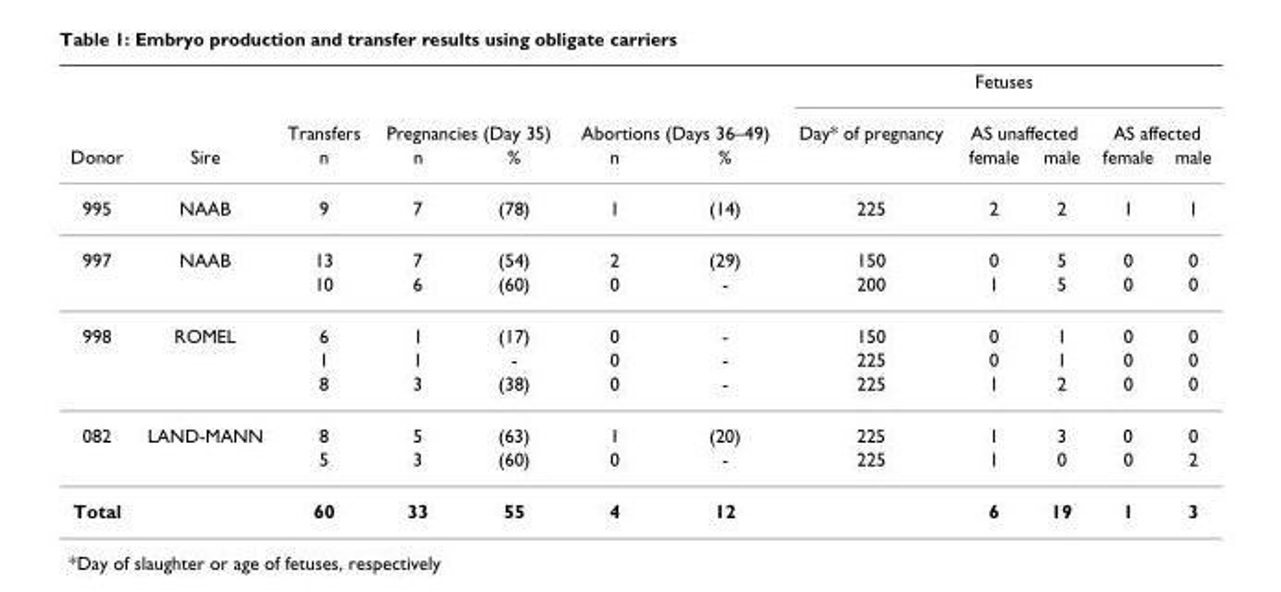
<table><thead><tr><td rowspan="3">Donor</td><td rowspan="3">Sire</td><td rowspan="3">Transfers n</td><td></td><td></td><td></td><td></td><td colspan="5">Fetuses</td></tr><tr><td colspan="2">Pregnancies (Day 35)</td><td colspan="2">Abortions (Days 36–49)</td><td rowspan="2">Day* of pregnancy</td><td colspan="2">AS unaffected</td><td colspan="2">AS affected</td></tr><tr><td>n</td><td>%</td><td>n</td><td>%</td><td>female</td><td>male</td><td>female</td><td>male</td></tr></thead><tbody><tr><td>995</td><td>NAAB</td><td>9</td><td>7</td><td>(78)</td><td>1</td><td>(14)</td><td>225</td><td>2</td><td>2</td><td>1</td><td>1</td></tr><tr><td rowspan="2">997</td><td>NAAB</td><td>13</td><td>7</td><td>(54)</td><td>2</td><td>(29)</td><td>150</td><td>0</td><td>5</td><td>0</td><td>0</td></tr><tr><td></td><td>10</td><td>6</td><td>(60)</td><td>0</td><td>-</td><td>200</td><td>1</td><td>5</td><td>0</td><td>0</td></tr><tr><td rowspan="3">998</td><td>ROMEL</td><td>6</td><td>1</td><td>(17)</td><td>0</td><td>-</td><td>150</td><td>0</td><td>1</td><td>0</td><td>0</td></tr><tr><td></td><td>1</td><td>1</td><td>-</td><td>0</td><td>-</td><td>225</td><td>0</td><td>1</td><td>0</td><td>0</td></tr><tr><td></td><td>8</td><td>3</td><td>(38)</td><td>0</td><td>-</td><td>225</td><td>1</td><td>2</td><td>0</td><td>0</td></tr><tr><td rowspan="2">082</td><td>LAND-MANN</td><td>8</td><td>5</td><td>(63)</td><td>1</td><td>(20)</td><td>225</td><td>1</td><td>3</td><td>0</td><td>0</td></tr><tr><td></td><td>5</td><td>3</td><td>(60)</td><td>0</td><td>-</td><td>225</td><td>1</td><td>0</td><td>0</td><td>2</td></tr><tr><td>Total</td><td></td><td>60</td><td>33</td><td>55</td><td>4</td><td>12</td><td></td><td>6</td><td>19</td><td>1</td><td>3</td></tr></tbody></table>